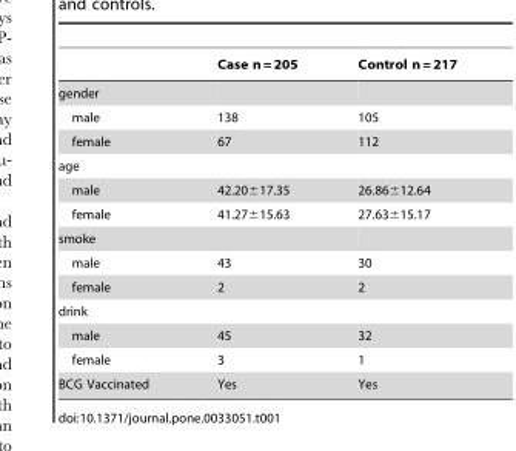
<table><thead><tr><td></td><td>Case n = 205</td><td>Control n = 217</td></tr></thead><tbody><tr><td colspan="3">gender</td></tr><tr><td>male</td><td>138</td><td>105</td></tr><tr><td>female</td><td>67</td><td>112</td></tr><tr><td colspan="3">age</td></tr><tr><td>male</td><td>42.20±17.35</td><td>26.86±12.64</td></tr><tr><td>female</td><td>41.27±15.63</td><td>27.63±15.17</td></tr><tr><td colspan="3">smoke</td></tr><tr><td>male</td><td>43</td><td>30</td></tr><tr><td>female</td><td>2</td><td>2</td></tr><tr><td colspan="3">drink</td></tr><tr><td>male</td><td>45</td><td>32</td></tr><tr><td>female</td><td>3</td><td>1</td></tr><tr><td>BCG Vaccinated</td><td>Yes</td><td>Yes</td></tr></tbody></table>